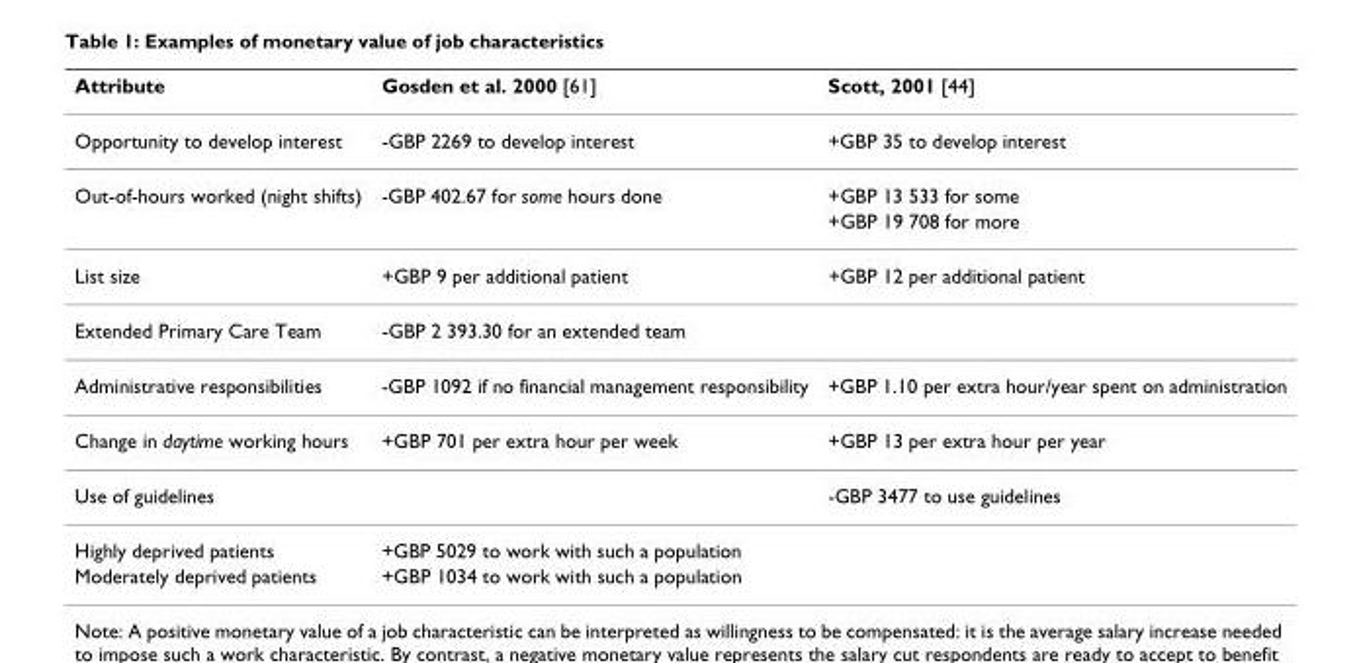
<table><thead><tr><td>Attribute</td><td>Gosden et al. 2000 [61]</td><td>Scott, 2001 [44]</td></tr></thead><tbody><tr><td>Opportunity to develop interest</td><td>-GBP 2269 to develop interest</td><td>+GBP 35 to develop interest</td></tr><tr><td rowspan="2">Out-of-hours worked (night shifts)</td><td>-GBP 402.67 for some hours done</td><td>+GBP 13 533 for some</td></tr><tr><td></td><td>+GBP 19 708 for more</td></tr><tr><td>List size</td><td>+GBP 9 per additional patient</td><td>+GBP 12 per additional patient</td></tr><tr><td>Extended Primary Care Team</td><td>-GBP 2 393.30 for an extended team</td><td></td></tr><tr><td>Administrative responsibilities</td><td>-GBP 1092 if no financial management responsibility</td><td>+GBP 1.10 per extra hour/year spent on administration</td></tr><tr><td>Change in daytime working hours</td><td>+GBP 701 per extra hour per week</td><td>+GBP 13 per extra hour per year</td></tr><tr><td>Use of guidelines</td><td></td><td>-GBP 3477 to use guidelines</td></tr><tr><td>Highly deprived patients</td><td>+GBP 5029 to work with such a population</td><td></td></tr><tr><td>Moderately deprived patients</td><td>+GBP 1034 to work with such a population</td><td></td></tr></tbody></table>